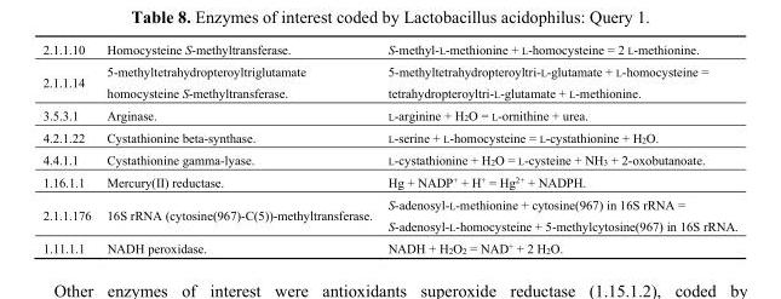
<table><tbody><tr><td>2.1.1.10</td><td>Homocysteine S-methyltransferase.</td><td>S-methyl-L-methionine + L-homocysteine = 2 L-methionine.</td></tr><tr><td>2.1.1.14</td><td>5-methyltetrahydropteroyltriglutamate homocysteine S-methyltransferase.</td><td>5-methyltetrahydropteroyltri-L-glutamate + L-homocysteine = tetrahydropteroyltri-L-glutamate + L-methionine.</td></tr><tr><td>3.5.3.1</td><td>Arginase.</td><td>L-arginine + H<sub>2</sub>O = L-ornithine + urea.</td></tr><tr><td>4.2.1.22</td><td>Cystathionine beta-synthase.</td><td>L-serine + L-homocysteine = L-cystathionine + H<sub>2</sub>O.</td></tr><tr><td>4.4.1.1</td><td>Cystathionine gamma-lyase.</td><td>L-cystathionine + H<sub>2</sub>O = L-cysteine + NH<sub>3</sub> + 2-oxobutanoate.</td></tr><tr><td>1.16.1.1</td><td>Mercury(II) reductase.</td><td>Hg + NADP<sup>+</sup> + H<sup>+</sup> = Hg<sup>2+</sup> + NADPH.</td></tr><tr><td>2.1.1.176</td><td>16S rRNA (cytosine(967)-C(5))-methyltransferase.</td><td>S-adenosyl-L-methionine + cytosine(967) in 16S rRNA = S-adenosyl-L-homocysteine + 5-methylcytosine(967) in 16S rRNA.</td></tr><tr><td>1.11.1.1</td><td>NADH peroxidase.</td><td>NADH + H<sub>2</sub>O<sub>2</sub> = NAD<sup>+</sup> + 2 H<sub>2</sub>O.</td></tr></tbody></table>